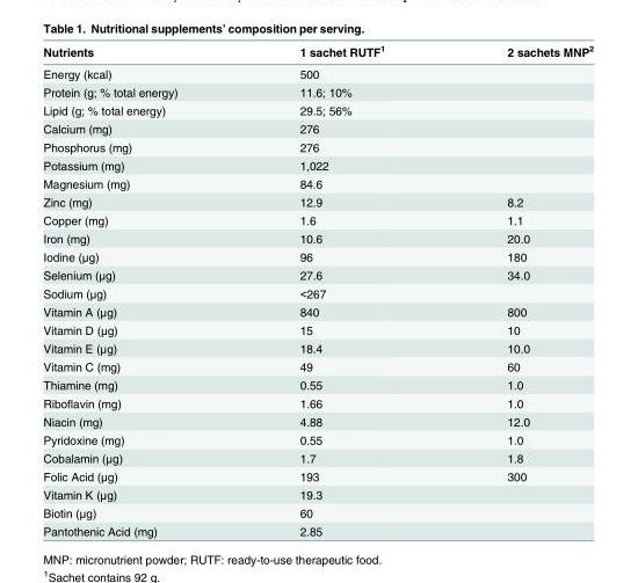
<table><thead><tr><td>Nutrients</td><td>1 sachet RUTF<sup>1</sup></td><td>2 sachets MNP<sup>2</sup></td></tr></thead><tbody><tr><td>Energy (kcal)</td><td>500</td><td></td></tr><tr><td>Protein (g; % total energy)</td><td>11.6; 10%</td><td></td></tr><tr><td>Lipid (g; % total energy)</td><td>29.5; 56%</td><td></td></tr><tr><td>Calcium (mg)</td><td>276</td><td></td></tr><tr><td>Phosphorus (mg)</td><td>276</td><td></td></tr><tr><td>Potassium (mg)</td><td>1,022</td><td></td></tr><tr><td>Magnesium (mg)</td><td>84.6</td><td></td></tr><tr><td>Zinc (mg)</td><td>12.9</td><td>8.2</td></tr><tr><td>Copper (mg)</td><td>1.6</td><td>1.1</td></tr><tr><td>Iron (mg)</td><td>10.6</td><td>20.0</td></tr><tr><td>Iodine (μg)</td><td>96</td><td>180</td></tr><tr><td>Selenium (μg)</td><td>27.6</td><td>34.0</td></tr><tr><td>Sodium (μg)</td><td>&lt;267</td><td></td></tr><tr><td>Vitamin A (μg)</td><td>840</td><td>800</td></tr><tr><td>Vitamin D (μg)</td><td>15</td><td>10</td></tr><tr><td>Vitamin E (μg)</td><td>18.4</td><td>10.0</td></tr><tr><td>Vitamin C (mg)</td><td>49</td><td>60</td></tr><tr><td>Thiamine (mg)</td><td>0.55</td><td>1.0</td></tr><tr><td>Riboflavin (mg)</td><td>1.66</td><td>1.0</td></tr><tr><td>Niacin (mg)</td><td>4.88</td><td>12.0</td></tr><tr><td>Pyridoxine (mg)</td><td>0.55</td><td>1.0</td></tr><tr><td>Cobalamin (μg)</td><td>1.7</td><td>1.8</td></tr><tr><td>Folic Acid (μg)</td><td>193</td><td>300</td></tr><tr><td>Vitamin K (μg)</td><td>19.3</td><td></td></tr><tr><td>Biotin (μg)</td><td>60</td><td></td></tr><tr><td>Pantothenic Acid (mg)</td><td>2.85</td><td></td></tr></tbody></table>